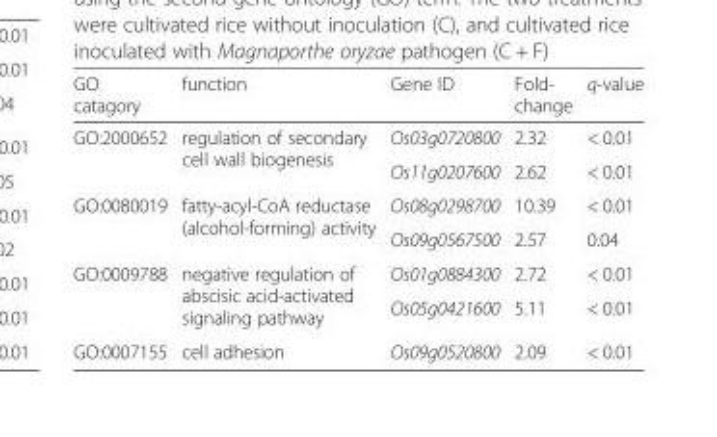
<table><thead><tr><td>GO catagory</td><td>function</td><td>Gene ID</td><td>Fold- change</td><td>q-value</td></tr></thead><tbody><tr><td rowspan="2">GO:2000652</td><td rowspan="2">regulation of secondary cell wall biogenesis</td><td>Os03g0720800</td><td>2.32</td><td>&lt; 0.01</td></tr><tr><td>Os11g0207600</td><td>2.62</td><td>&lt; 0.01</td></tr><tr><td rowspan="2">GO:0080019</td><td rowspan="2">fatty-acyl-CoA reductase (alcohol-forming) activity</td><td>Os08g0298700</td><td>10.39</td><td>&lt; 0.01</td></tr><tr><td>Os09g0567500</td><td>2.57</td><td>0.04</td></tr><tr><td rowspan="2">GO:0009788</td><td rowspan="2">negative regulation of abscisic acid-activated signaling pathway</td><td>Os01g0884300</td><td>2.72</td><td>&lt; 0.01</td></tr><tr><td>Os05g0421600</td><td>5.11</td><td>&lt; 0.01</td></tr><tr><td>GO:0007155</td><td>cell adhesion</td><td>Os09g0520800</td><td>2.09</td><td>&lt; 0.01</td></tr></tbody></table>